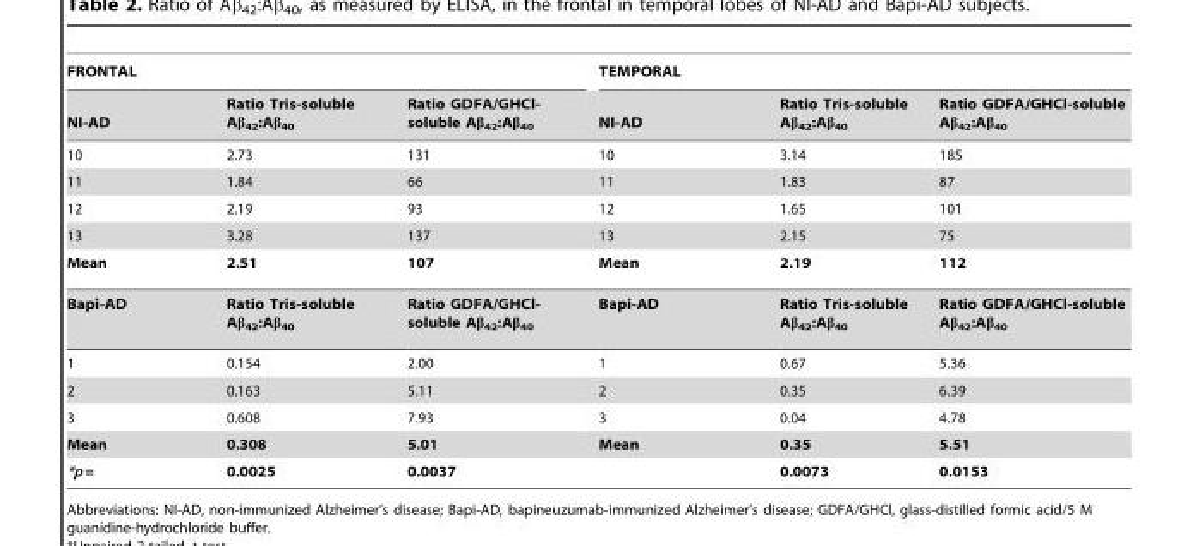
<table><thead><tr><td colspan="3">FRONTAL</td><td colspan="3">TEMPORAL</td></tr><tr><td>NI-AD</td><td>Ratio Tris-soluble Aβ<sub>42</sub>:Aβ<sub>40</sub></td><td>Ratio GDFA/GHCl- soluble Aβ<sub>42</sub>:Aβ<sub>40</sub></td><td>NI-AD</td><td>Ratio Tris-soluble Aβ<sub>42</sub>:Aβ<sub>40</sub></td><td>Ratio GDFA/GHCl-soluble Aβ<sub>42</sub>:Aβ<sub>40</sub></td></tr></thead><tbody><tr><td>10</td><td>2.73</td><td>131</td><td>10</td><td>3.14</td><td>185</td></tr><tr><td>11</td><td>1.84</td><td>66</td><td>11</td><td>1.83</td><td>87</td></tr><tr><td>12</td><td>2.19</td><td>93</td><td>12</td><td>1.65</td><td>101</td></tr><tr><td>13</td><td>3.28</td><td>137</td><td>13</td><td>2.15</td><td>75</td></tr><tr><td>Mean</td><td>2.51</td><td>107</td><td>Mean</td><td>2.19</td><td>112</td></tr><tr><td>Bapi-AD</td><td>Ratio Tris-soluble Aβ<sub>42</sub>:Aβ<sub>40</sub></td><td>Ratio GDFA/GHCl- soluble Aβ<sub>42</sub>:Aβ<sub>40</sub></td><td>Bapi-AD</td><td>Ratio Tris-soluble Aβ<sub>42</sub>:Aβ<sub>40</sub></td><td>Ratio GDFA/GHCl-soluble Aβ<sub>42</sub>:Aβ<sub>40</sub></td></tr><tr><td>1</td><td>0.154</td><td>2.00</td><td>1</td><td>0.67</td><td>5.36</td></tr><tr><td>2</td><td>0.163</td><td>5.11</td><td>2</td><td>0.35</td><td>6.39</td></tr><tr><td>3</td><td>0.608</td><td>7.93</td><td>3</td><td>0.04</td><td>4.78</td></tr><tr><td>Mean</td><td>0.308</td><td>5.01</td><td>Mean</td><td>0.35</td><td>5.51</td></tr><tr><td>*p =</td><td>0.0025</td><td>0.0037</td><td></td><td>0.0073</td><td>0.0153</td></tr></tbody></table>